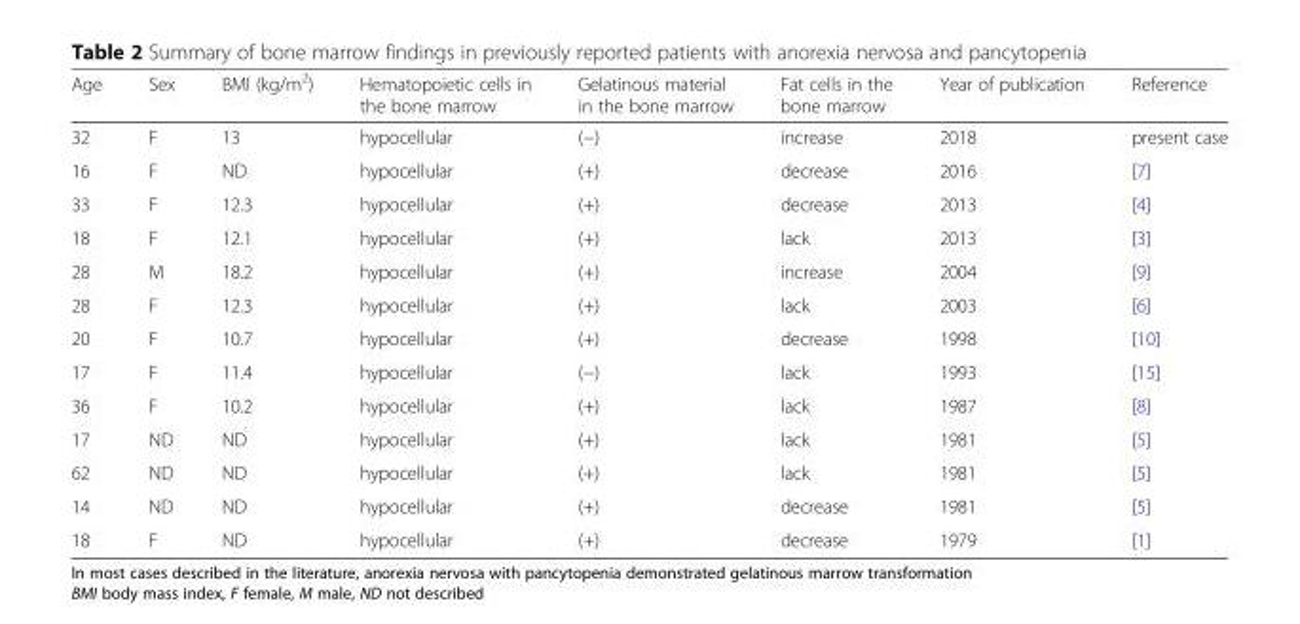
<table><thead><tr><td>Age</td><td>Sex</td><td>BMI (kg/m<sup>2</sup>)</td><td>Hematopoietic cells in the bone marrow</td><td>Gelatinous material in the bone marrow</td><td>Fat cells in the bone marrow</td><td>Year of publication</td><td>Reference</td></tr></thead><tbody><tr><td>32</td><td>F</td><td>13</td><td>hypocellular</td><td>(−)</td><td>increase</td><td>2018</td><td>present case</td></tr><tr><td>16</td><td>F</td><td>ND</td><td>hypocellular</td><td>(+)</td><td>decrease</td><td>2016</td><td>[7]</td></tr><tr><td>33</td><td>F</td><td>12.3</td><td>hypocellular</td><td>(+)</td><td>decrease</td><td>2013</td><td>[4]</td></tr><tr><td>18</td><td>F</td><td>12.1</td><td>hypocellular</td><td>(+)</td><td>lack</td><td>2013</td><td>[3]</td></tr><tr><td>28</td><td>M</td><td>18.2</td><td>hypocellular</td><td>(+)</td><td>increase</td><td>2004</td><td>[9]</td></tr><tr><td>28</td><td>F</td><td>12.3</td><td>hypocellular</td><td>(+)</td><td>lack</td><td>2003</td><td>[6]</td></tr><tr><td>20</td><td>F</td><td>10.7</td><td>hypocellular</td><td>(+)</td><td>decrease</td><td>1998</td><td>[10]</td></tr><tr><td>17</td><td>F</td><td>11.4</td><td>hypocellular</td><td>(−)</td><td>lack</td><td>1993</td><td>[15]</td></tr><tr><td>36</td><td>F</td><td>10.2</td><td>hypocellular</td><td>(+)</td><td>lack</td><td>1987</td><td>[8]</td></tr><tr><td>17</td><td>ND</td><td>ND</td><td>hypocellular</td><td>(+)</td><td>lack</td><td>1981</td><td>[5]</td></tr><tr><td>62</td><td>ND</td><td>ND</td><td>hypocellular</td><td>(+)</td><td>lack</td><td>1981</td><td>[5]</td></tr><tr><td>14</td><td>ND</td><td>ND</td><td>hypocellular</td><td>(+)</td><td>decrease</td><td>1981</td><td>[5]</td></tr><tr><td>18</td><td>F</td><td>ND</td><td>hypocellular</td><td>(+)</td><td>decrease</td><td>1979</td><td>[1]</td></tr></tbody></table>